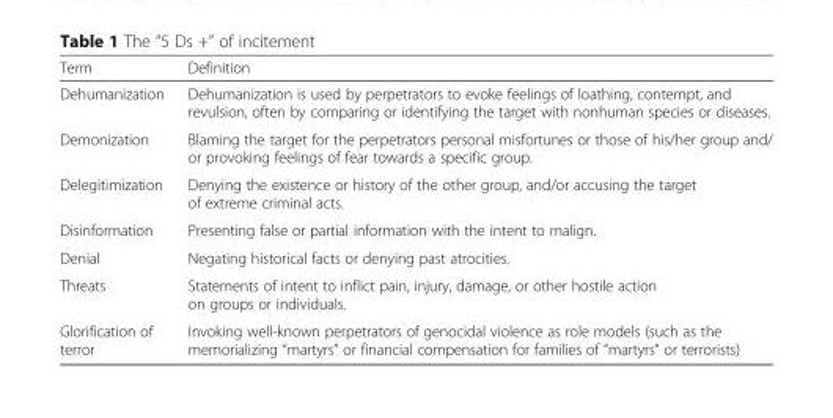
<table><thead><tr><td>Term</td><td>Definition</td></tr></thead><tbody><tr><td>Dehumanization</td><td>Dehumanization is used by perpetrators to evoke feelings of loathing, contempt, and revulsion, often by comparing or identifying the target with nonhuman species or diseases.</td></tr><tr><td>Demonization</td><td>Blaming the target for the perpetrators personal misfortunes or those of his/her group and/ or provoking feelings of fear towards a specific group.</td></tr><tr><td>Delegitimization</td><td>Denying the existence or history of the other group, and/or accusing the target of extreme criminal acts.</td></tr><tr><td>Disinformation</td><td>Presenting false or partial information with the intent to malign.</td></tr><tr><td>Denial</td><td>Negating historical facts or denying past atrocities.</td></tr><tr><td>Threats</td><td>Statements of intent to inflict pain, injury, damage, or other hostile action on groups or individuals.</td></tr><tr><td>Glorification of terror</td><td>Invoking well-known perpetrators of genocidal violence as role models (such as the memorializing “martyrs” or financial compensation for families of “martyrs” or terrorists)</td></tr></tbody></table>